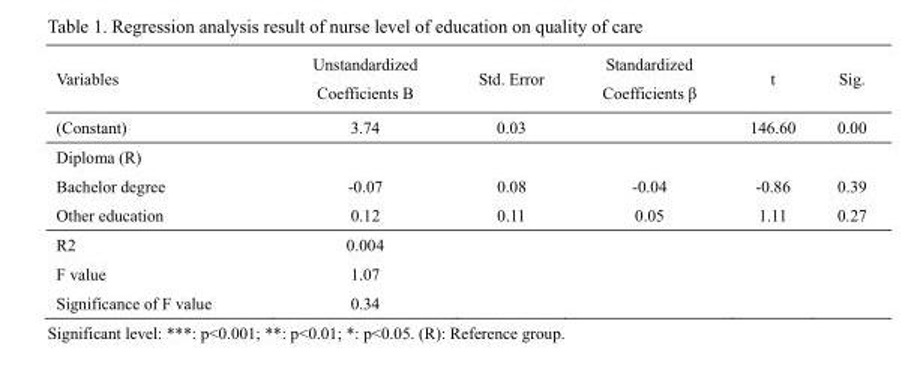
<table><thead><tr><td>Variables</td><td>Unstandardized Coefficients B</td><td>Std. Error</td><td>Standardized Coefficients β</td><td>t</td><td>Sig.</td></tr></thead><tbody><tr><td>(Constant)</td><td>3.74</td><td>0.03</td><td></td><td>146.60</td><td>0.00</td></tr><tr><td colspan="6">Diploma (R)</td></tr><tr><td>Bachelor degree</td><td>-0.07</td><td>0.08</td><td>-0.04</td><td>-0.86</td><td>0.39</td></tr><tr><td>Other education</td><td>0.12</td><td>0.11</td><td>0.05</td><td>1.11</td><td>0.27</td></tr><tr><td>R2</td><td>0.004</td><td></td><td></td><td></td><td></td></tr><tr><td>F value</td><td>1.07</td><td></td><td></td><td></td><td></td></tr><tr><td>Significance of F value</td><td>0.34</td><td></td><td></td><td></td><td></td></tr></tbody></table>